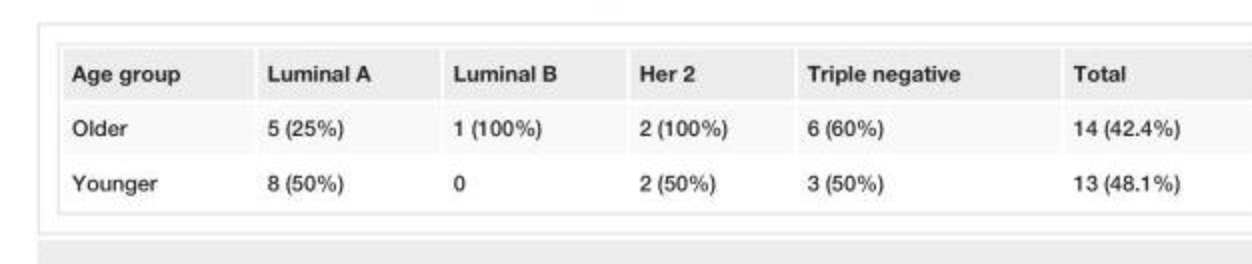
<table><tbody><tr><td>Age group</td><td>Luminal A</td><td>Luminal B</td><td>Her 2</td><td>Triple negative</td><td>Total</td></tr><tr><td>Older</td><td>5 (25%)</td><td>1 (100%)</td><td>2 (100%)</td><td>6 (60%)</td><td>14 (42.4%)</td></tr><tr><td>Younger</td><td>8 (50%)</td><td>0</td><td>2 (50%)</td><td>3 (50%)</td><td>13 (48.1%)</td></tr></tbody></table>